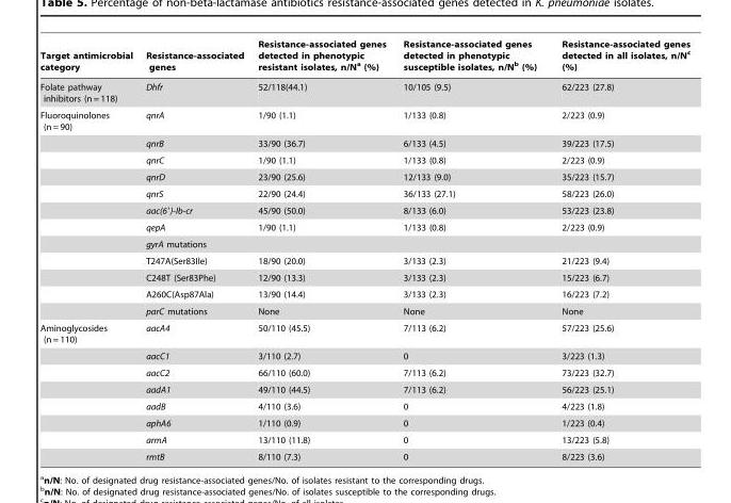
<table><thead><tr><td>Target antimicrobial category</td><td>Resistance-associated genes</td><td>Resistance-associated genes detected in phenotypic resistant isolates, n/N<sup>a</sup> (%)</td><td>Resistance-associated genes detected in phenotypic susceptible isolates, n/N<sup>b</sup> (%)</td><td>Resistance-associated genes detected in all isolates, n/N<sup>c</sup> (%)</td></tr></thead><tbody><tr><td>Folate pathway inhibitors (n = 118)</td><td>Dhfr</td><td>52/118(44.1)</td><td>10/105 (9.5)</td><td>62/223 (27.8)</td></tr><tr><td rowspan="12">Fluoroquinolones (n = 90)</td><td>qnrA</td><td>1/90 (1.1)</td><td>1/133 (0.8)</td><td>2/223 (0.9)</td></tr><tr><td>qnrB</td><td>33/90 (36.7)</td><td>6/133 (4.5)</td><td>39/223 (17.5)</td></tr><tr><td>qnrC</td><td>1/90 (1.1)</td><td>1/133 (0.8)</td><td>2/223 (0.9)</td></tr><tr><td>qnrD</td><td>23/90 (25.6)</td><td>12/133 (9.0)</td><td>35/223 (15.7)</td></tr><tr><td>qnrS</td><td>22/90 (24.4)</td><td>36/133 (27.1)</td><td>58/223 (26.0)</td></tr><tr><td>aac(6′)-Ib-cr</td><td>45/90 (50.0)</td><td>8/133 (6.0)</td><td>53/223 (23.8)</td></tr><tr><td>qepA</td><td>1/90 (1.1)</td><td>1/133 (0.8)</td><td>2/223 (0.9)</td></tr><tr><td colspan="4">gyrA mutations</td></tr><tr><td>T247A(Ser83Ile)</td><td>18/90 (20.0)</td><td>3/133 (2.3)</td><td>21/223 (9.4)</td></tr><tr><td>C248T (Ser83Phe)</td><td>12/90 (13.3)</td><td>3/133 (2.3)</td><td>15/223 (6.7)</td></tr><tr><td>A260C(Asp87Ala)</td><td>13/90 (14.4)</td><td>3/133 (2.3)</td><td>16/223 (7.2)</td></tr><tr><td>parC mutations</td><td>None</td><td>None</td><td>None</td></tr><tr><td rowspan="8">Aminoglycosides (n = 110)</td><td>aacA4</td><td>50/110 (45.5)</td><td>7/113 (6.2)</td><td>57/223 (25.6)</td></tr><tr><td>aacC1</td><td>3/110 (2.7)</td><td>0</td><td>3/223 (1.3)</td></tr><tr><td>aacC2</td><td>66/110 (60.0)</td><td>7/113 (6.2)</td><td>73/223 (32.7)</td></tr><tr><td>aadA1</td><td>49/110 (44.5)</td><td>7/113 (6.2)</td><td>56/223 (25.1)</td></tr><tr><td>aadB</td><td>4/110 (3.6)</td><td>0</td><td>4/223 (1.8)</td></tr><tr><td>aphA6</td><td>1/110 (0.9)</td><td>0</td><td>1/223 (0.4)</td></tr><tr><td>armA</td><td>13/110 (11.8)</td><td>0</td><td>13/223 (5.8)</td></tr><tr><td>rmtB</td><td>8/110 (7.3)</td><td>0</td><td>8/223 (3.6)</td></tr></tbody></table>